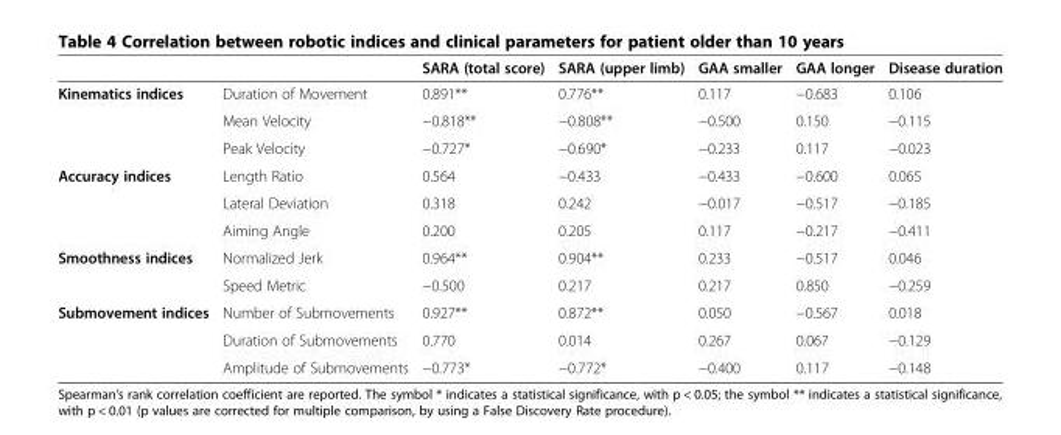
<table><thead><tr><td></td><td></td><td>SARA (total score)</td><td>SARA (upper limb)</td><td>GAA smaller</td><td>GAA longer</td><td>Disease duration</td></tr></thead><tbody><tr><td rowspan="3">Kinematics indices</td><td>Duration of Movement</td><td>0.891**</td><td>0.776**</td><td>0.117</td><td>−0.683</td><td>0.106</td></tr><tr><td>Mean Velocity</td><td>−0.818**</td><td>−0.808**</td><td>−0.500</td><td>0.150</td><td>−0.115</td></tr><tr><td>Peak Velocity</td><td>−0.727*</td><td>−0.690*</td><td>−0.233</td><td>0.117</td><td>−0.023</td></tr><tr><td rowspan="3">Accuracy indices</td><td>Length Ratio</td><td>0.564</td><td>−0.433</td><td>−0.433</td><td>−0.600</td><td>0.065</td></tr><tr><td>Lateral Deviation</td><td>0.318</td><td>0.242</td><td>−0.017</td><td>−0.517</td><td>−0.185</td></tr><tr><td>Aiming Angle</td><td>0.200</td><td>0.205</td><td>0.117</td><td>−0.217</td><td>−0.411</td></tr><tr><td rowspan="2">Smoothness indices</td><td>Normalized Jerk</td><td>0.964**</td><td>0.904**</td><td>0.233</td><td>−0.517</td><td>0.046</td></tr><tr><td>Speed Metric</td><td>−0.500</td><td>0.217</td><td>0.217</td><td>0.850</td><td>−0.259</td></tr><tr><td rowspan="3">Submovement indices</td><td>Number of Submovements</td><td>0.927**</td><td>0.872**</td><td>0.050</td><td>−0.567</td><td>0.018</td></tr><tr><td>Duration of Submovements</td><td>0.770</td><td>0.014</td><td>0.267</td><td>0.067</td><td>−0.129</td></tr><tr><td>Amplitude of Submovements</td><td>−0.773*</td><td>−0.772*</td><td>−0.400</td><td>0.117</td><td>−0.148</td></tr></tbody></table>